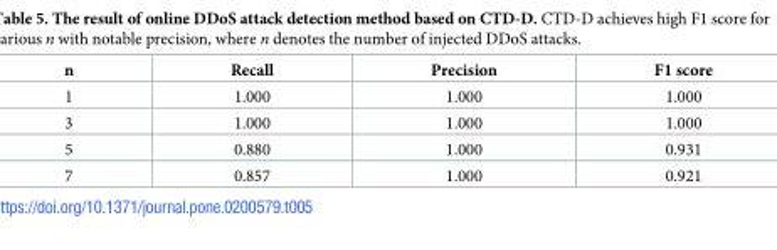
<table><thead><tr><td>n</td><td>Recall</td><td>Precision</td><td>F1 score</td></tr></thead><tbody><tr><td>1</td><td>1.000</td><td>1.000</td><td>1.000</td></tr><tr><td>3</td><td>1.000</td><td>1.000</td><td>1.000</td></tr><tr><td>5</td><td>0.880</td><td>1.000</td><td>0.931</td></tr><tr><td>7</td><td>0.857</td><td>1.000</td><td>0.921</td></tr></tbody></table>